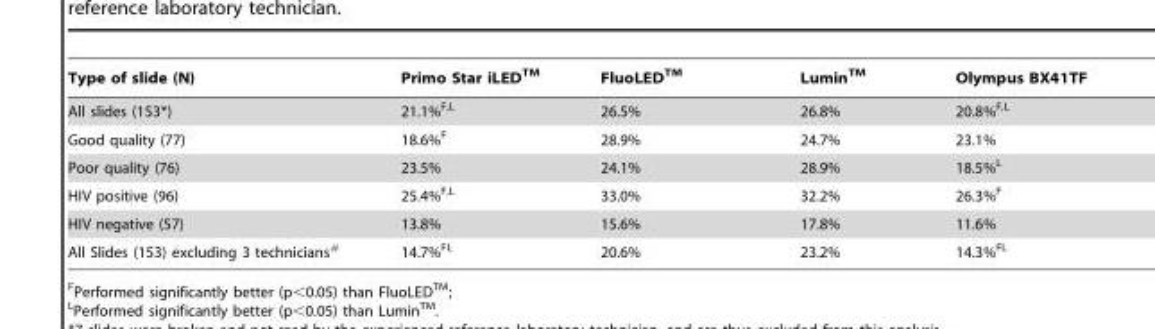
<table><thead><tr><td>Type of slide (N)</td><td>Primo Star iLEDTM</td><td>FluoLEDTM</td><td>LuminTM</td><td>Olympus BX41TF</td></tr></thead><tbody><tr><td>All slides (153*)</td><td>21.1%<sup>F,</sup>L</td><td>26.5%</td><td>26.8%</td><td>20.8%<sup>F,</sup>L</td></tr><tr><td>Good quality (77)</td><td>18.6%<sup>F</sup></td><td>28.9%</td><td>24.7%</td><td>23.1%</td></tr><tr><td>Poor quality (76)</td><td>23.5%</td><td>24.1%</td><td>28.9%</td><td>18.5%<sup>L</sup></td></tr><tr><td>HIV positive (96)</td><td>25.4%<sup>F,</sup>L</td><td>33.0%</td><td>32.2%</td><td>26.3%<sup>F</sup></td></tr><tr><td>HIV negative (57)</td><td>13.8%</td><td>15.6%</td><td>17.8%</td><td>11.6%</td></tr><tr><td>All Slides (153) excluding 3 technicians#</td><td>14.7%<sup>FL</sup></td><td>20.6%</td><td>23.2%</td><td>14.3%<sup>FL</sup></td></tr></tbody></table>